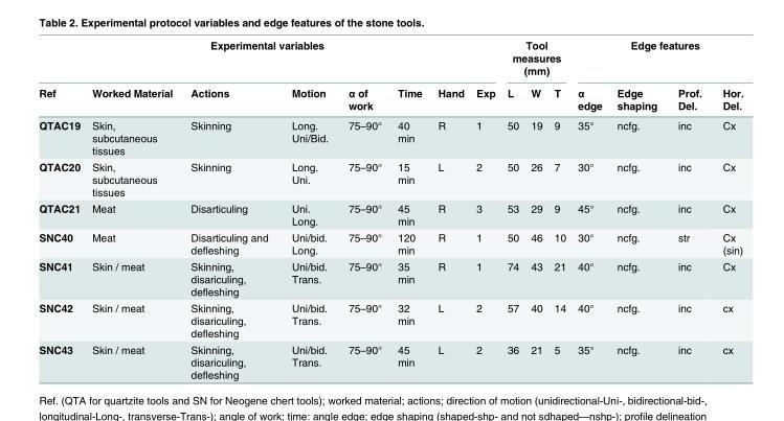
<table><thead><tr><td colspan="8">Experimental variables</td><td colspan="3">Tool measures (mm)</td><td colspan="4">Edge features</td></tr><tr><td>Ref</td><td>Worked Material</td><td>Actions</td><td>Motion</td><td>α of work</td><td>Time</td><td>Hand</td><td>Exp</td><td>L</td><td>W</td><td>T</td><td>α edge</td><td>Edge shaping</td><td>Prof. Del.</td><td>Hor. Del.</td></tr></thead><tbody><tr><td>QTAC19</td><td>Skin, subcutaneous tissues</td><td>Skinning</td><td>Long. Uni/Bid.</td><td>75–90°</td><td>40 min</td><td>R</td><td>1</td><td>50</td><td>19</td><td>9</td><td>35°</td><td>ncfg.</td><td>inc</td><td>Cx</td></tr><tr><td>QTAC20</td><td>Skin, subcutaneous tissues</td><td>Skinning</td><td>Long. Uni.</td><td>75–90°</td><td>15 min</td><td>L</td><td>2</td><td>50</td><td>26</td><td>7</td><td>30°</td><td>ncfg.</td><td>inc</td><td>Cx</td></tr><tr><td>QTAC21</td><td>Meat</td><td>Disarticuling</td><td>Uni. Long.</td><td>75–90°</td><td>45 min</td><td>R</td><td>3</td><td>53</td><td>29</td><td>9</td><td>45°</td><td>ncfg.</td><td>inc</td><td>Cx</td></tr><tr><td>SNC40</td><td>Meat</td><td>Disarticuling and defleshing</td><td>Uni/bid. Long.</td><td>75–90°</td><td>120 min</td><td>R</td><td>1</td><td>50</td><td>46</td><td>10</td><td>30°</td><td>ncfg.</td><td>str</td><td>Cx (sin)</td></tr><tr><td>SNC41</td><td>Skin / meat</td><td>Skinning, disariculing, defleshing</td><td>Uni/bid. Trans.</td><td>75–90°</td><td>35 min</td><td>R</td><td>1</td><td>74</td><td>43</td><td>21</td><td>40°</td><td>ncfg.</td><td>inc</td><td>Cx</td></tr><tr><td>SNC42</td><td>Skin / meat</td><td>Skinning, disariculing, defleshing</td><td>Uni/bid. Trans.</td><td>75–90°</td><td>32 min</td><td>L</td><td>2</td><td>57</td><td>40</td><td>14</td><td>40°</td><td>ncfg.</td><td>inc</td><td>cx</td></tr><tr><td>SNC43</td><td>Skin / meat</td><td>Skinning, disariculing, defleshing</td><td>Uni/bid. Trans.</td><td>75–90°</td><td>45 min</td><td>L</td><td>2</td><td>36</td><td>21</td><td>5</td><td>35°</td><td>ncfg.</td><td>inc</td><td>cx</td></tr></tbody></table>